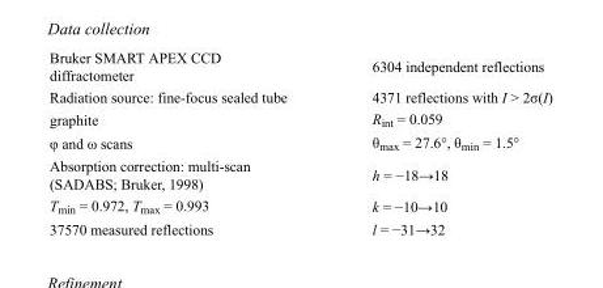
<table><tbody><tr><td>Bruker SMART APEX CCD diffractometer</td><td>6304 independent reflections</td></tr><tr><td>Radiation source: fine-focus sealed tube</td><td>4371 reflections with I &gt; 2σ(I)</td></tr><tr><td>graphite</td><td>R<sub>int</sub> = 0.059</td></tr><tr><td>φ and ω scans</td><td>θ<sub>max</sub> = 27.6°, θ<sub>min</sub> = 1.5°</td></tr><tr><td>Absorption correction: multi-scan (SADABS; Bruker, 1998)</td><td>h = −18→18</td></tr><tr><td>T<sub>min</sub> = 0.972, T<sub>max</sub> = 0.993</td><td>k = −10→10</td></tr><tr><td>37570 measured reflections</td><td>l = −31→32</td></tr></tbody></table>